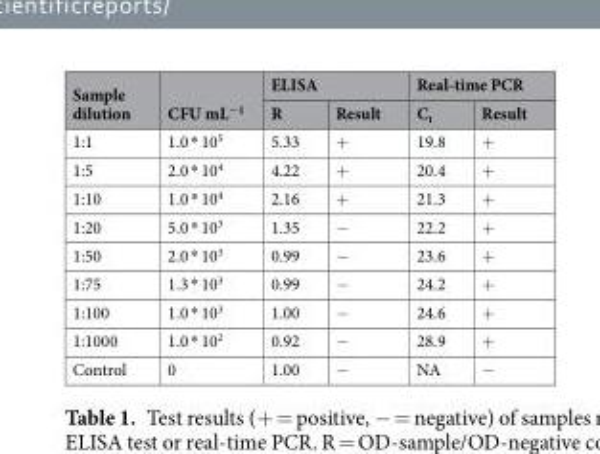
<table><thead><tr><td rowspan="2">Sample dilution</td><td rowspan="2">CFU mL<sup>−1</sup></td><td colspan="2">ELISA</td><td colspan="2">Real-time PCR</td></tr><tr><td>R</td><td>Result</td><td>C<sub>t</sub></td><td>Result</td></tr></thead><tbody><tr><td>1:1</td><td>1.0 * 10<sup>5</sup></td><td>5.33</td><td>+</td><td>19.8</td><td>+</td></tr><tr><td>1:5</td><td>2.0 * 10<sup>4</sup></td><td>4.22</td><td>+</td><td>20.4</td><td>+</td></tr><tr><td>1:10</td><td>1.0 * 10<sup>4</sup></td><td>2.16</td><td>+</td><td>21.3</td><td>+</td></tr><tr><td>1:20</td><td>5.0 * 10<sup>3</sup></td><td>1.35</td><td>−</td><td>22.2</td><td>+</td></tr><tr><td>1:50</td><td>2.0 * 10<sup>3</sup></td><td>0.99</td><td>−</td><td>23.6</td><td>+</td></tr><tr><td>1:75</td><td>1.3 * 10<sup>3</sup></td><td>0.99</td><td>−</td><td>24.2</td><td>+</td></tr><tr><td>1:100</td><td>1.0 * 10<sup>3</sup></td><td>1.00</td><td>−</td><td>24.6</td><td>+</td></tr><tr><td>1:1000</td><td>1.0 * 10<sup>2</sup></td><td>0.92</td><td>−</td><td>28.9</td><td>+</td></tr><tr><td>Control</td><td>0</td><td>1.00</td><td>−</td><td>NA</td><td>−</td></tr></tbody></table>